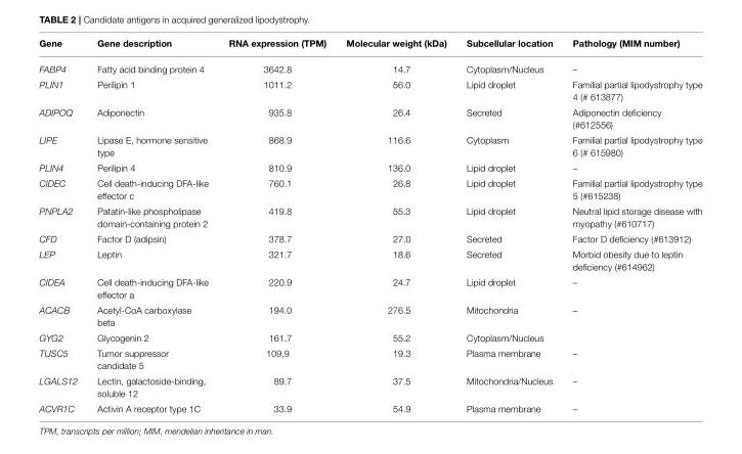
<table><thead><tr><td>Gene</td><td>Gene description</td><td>RNA expression (TPM)</td><td>Molecular weight (kDa)</td><td>Subcellular location</td><td>Pathology (MIM number)</td></tr></thead><tbody><tr><td>FABP4</td><td>Fatty acid binding protein 4</td><td>3642.8</td><td>14.7</td><td>Cytoplasm/Nucleus</td><td>–</td></tr><tr><td>PLIN1</td><td>Perilipin 1</td><td>1011.2</td><td>56.0</td><td>Lipid droplet</td><td>Familial partial lipodystrophy type 4 (# 613877)</td></tr><tr><td>ADIPOQ</td><td>Adiponectin</td><td>935.8</td><td>26.4</td><td>Secreted</td><td>Adiponectin deficiency (#612556)</td></tr><tr><td>LIPE</td><td>Lipase E, hormone sensitive type</td><td>868.9</td><td>116.6</td><td>Cytoplasm</td><td>Familial partial lipodystrophy type 6 (# 615980)</td></tr><tr><td>PLIN4</td><td>Perilipin 4</td><td>810.9</td><td>136.0</td><td>Lipid droplet</td><td>–</td></tr><tr><td>CIDEC</td><td>Cell death-inducing DFA-like effector c</td><td>760.1</td><td>26.8</td><td>Lipid droplet</td><td>Familial partial lipodystrophy type 5 (#615238)</td></tr><tr><td>PNPLA2</td><td>Patatin-like phospholipase domain-containing protein 2</td><td>419.8</td><td>55.3</td><td>Lipid droplet</td><td>Neutral lipid storage disease with myopathy (#610717)</td></tr><tr><td>CFD</td><td>Factor D (adipsin)</td><td>378.7</td><td>27.0</td><td>Secreted</td><td>Factor D deficiency (#613912)</td></tr><tr><td>LEP</td><td>Leptin</td><td>321.7</td><td>18.6</td><td>Secreted</td><td>Morbid obesity due to leptin deficiency (#614962)</td></tr><tr><td>CIDEA</td><td>Cell death-inducing DFA-like effector a</td><td>220.9</td><td>24.7</td><td>Lipid droplet</td><td>–</td></tr><tr><td>ACACB</td><td>Acetyl-CoA carboxylase beta</td><td>194.0</td><td>276.5</td><td>Mitochondria</td><td>–</td></tr><tr><td>GYG2</td><td>Glycogenin 2</td><td>161.7</td><td>55.2</td><td>Cytoplasm/Nucleus</td><td></td></tr><tr><td>TUSC5</td><td>Tumor suppressor candidate 5</td><td>109,9</td><td>19.3</td><td>Plasma membrane</td><td>–</td></tr><tr><td>LGALS12</td><td>Lectin, galactoside-binding, soluble 12</td><td>89.7</td><td>37.5</td><td>Mitochondria/Nucleus</td><td>–</td></tr><tr><td>ACVR1C</td><td>Activin A receptor type 1C</td><td>33.9</td><td>54.9</td><td>Plasma membrane</td><td>–</td></tr></tbody></table>